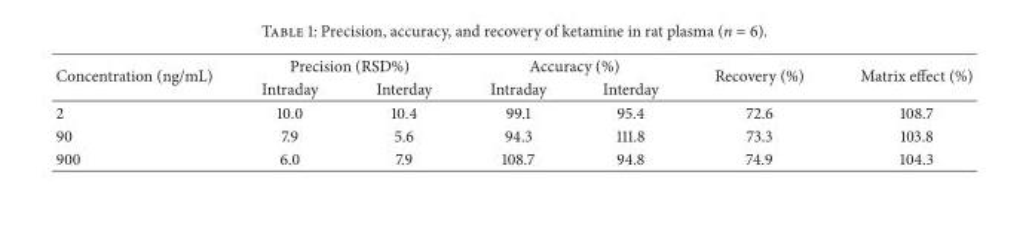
<table><thead><tr><td rowspan="2">Concentration (ng/mL)</td><td colspan="2">Precision (RSD%)</td><td colspan="2">Accuracy (%)</td><td rowspan="2">Recovery (%)</td><td rowspan="2">Matrix effect (%)</td></tr><tr><td>Intraday</td><td>Interday</td><td>Intraday</td><td>Interday</td></tr></thead><tbody><tr><td>2</td><td>10.0</td><td>10.4</td><td>99.1</td><td>95.4</td><td>72.6</td><td>108.7</td></tr><tr><td>90</td><td>7.9</td><td>5.6</td><td>94.3</td><td>111.8</td><td>73.3</td><td>103.8</td></tr><tr><td>900</td><td>6.0</td><td>7.9</td><td>108.7</td><td>94.8</td><td>74.9</td><td>104.3</td></tr></tbody></table>